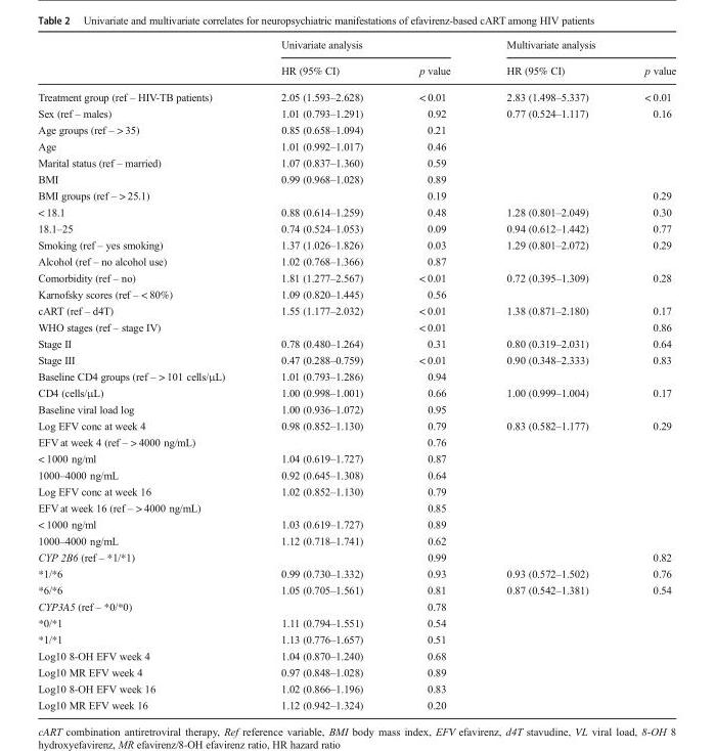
<table><thead><tr><td rowspan="2"></td><td colspan="2">Univariate analysis</td><td colspan="2">Multivariate analysis</td></tr><tr><td>HR (95% CI)</td><td>p value</td><td>HR (95% CI)</td><td>p value</td></tr></thead><tbody><tr><td>Treatment group (ref – HIV-TB patients)</td><td>2.05 (1.593–2.628)</td><td>&lt; 0.01</td><td>2.83 (1.498–5.337)</td><td>&lt; 0.01</td></tr><tr><td>Sex (ref – males)</td><td>1.01 (0.793–1.291)</td><td>0.92</td><td>0.77 (0.524–1.117)</td><td>0.16</td></tr><tr><td>Age groups (ref – &gt; 35)</td><td>0.85 (0.658–1.094)</td><td>0.21</td><td></td><td></td></tr><tr><td>Age</td><td>1.01 (0.992–1.017)</td><td>0.46</td><td></td><td></td></tr><tr><td>Marital status (ref – married)</td><td>1.07 (0.837–1.360)</td><td>0.59</td><td></td><td></td></tr><tr><td>BMI</td><td>0.99 (0.968–1.028)</td><td>0.89</td><td></td><td></td></tr><tr><td>BMI groups (ref – &gt; 25.1)</td><td></td><td>0.19</td><td></td><td>0.29</td></tr><tr><td>&lt; 18.1</td><td>0.88 (0.614–1.259)</td><td>0.48</td><td>1.28 (0.801–2.049)</td><td>0.30</td></tr><tr><td>18.1–25</td><td>0.74 (0.524–1.053)</td><td>0.09</td><td>0.94 (0.612–1.442)</td><td>0.77</td></tr><tr><td>Smoking (ref – yes smoking)</td><td>1.37 (1.026–1.826)</td><td>0.03</td><td>1.29 (0.801–2.072)</td><td>0.29</td></tr><tr><td>Alcohol (ref – no alcohol use)</td><td>1.02 (0.768–1.366)</td><td>0.87</td><td></td><td></td></tr><tr><td>Comorbidity (ref – no)</td><td>1.81 (1.277–2.567)</td><td>&lt; 0.01</td><td>0.72 (0.395–1.309)</td><td>0.28</td></tr><tr><td>Karnofsky scores (ref – &lt; 80%)</td><td>1.09 (0.820–1.445)</td><td>0.56</td><td></td><td></td></tr><tr><td>cART (ref – d4T)</td><td>1.55 (1.177–2.032)</td><td>&lt; 0.01</td><td>1.38 (0.871–2.180)</td><td>0.17</td></tr><tr><td>WHO stages (ref – stage IV)</td><td></td><td>&lt; 0.01</td><td></td><td>0.86</td></tr><tr><td>Stage II</td><td>0.78 (0.480–1.264)</td><td>0.31</td><td>0.80 (0.319–2.031)</td><td>0.64</td></tr><tr><td>Stage III</td><td>0.47 (0.288–0.759)</td><td>&lt; 0.01</td><td>0.90 (0.348–2.333)</td><td>0.83</td></tr><tr><td>Baseline CD4 groups (ref – &gt; 101 cells/μL)</td><td>1.01 (0.793–1.286)</td><td>0.94</td><td></td><td></td></tr><tr><td>CD4 (cells/μL)</td><td>1.00 (0.998–1.001)</td><td>0.66</td><td>1.00 (0.999–1.004)</td><td>0.17</td></tr><tr><td>Baseline viral load log</td><td>1.00 (0.936–1.072)</td><td>0.95</td><td></td><td></td></tr><tr><td>Log EFV conc at week 4</td><td>0.98 (0.852–1.130)</td><td>0.79</td><td>0.83 (0.582–1.177)</td><td>0.29</td></tr><tr><td>EFVat week 4 (ref – &gt; 4000 ng/mL)</td><td></td><td>0.76</td><td></td><td></td></tr><tr><td>&lt; 1000 ng/ml</td><td>1.04 (0.619–1.727)</td><td>0.87</td><td></td><td></td></tr><tr><td>1000–4000 ng/mL</td><td>0.92 (0.645–1.308)</td><td>0.64</td><td></td><td></td></tr><tr><td>Log EFV conc at week 16</td><td>1.02 (0.852–1.130)</td><td>0.79</td><td></td><td></td></tr><tr><td>EFVat week 16 (ref – &gt; 4000 ng/mL)</td><td></td><td>0.85</td><td></td><td></td></tr><tr><td>&lt; 1000 ng/ml</td><td>1.03 (0.619–1.727)</td><td>0.89</td><td></td><td></td></tr><tr><td>1000–4000 ng/mL</td><td>1.12 (0.718–1.741)</td><td>0.62</td><td></td><td></td></tr><tr><td>CYP 2B6 (ref – *1/*1)</td><td></td><td>0.99</td><td></td><td>0.82</td></tr><tr><td>*1/*6</td><td>0.99 (0.730–1.332)</td><td>0.93</td><td>0.93 (0.572–1.502)</td><td>0.76</td></tr><tr><td>*6/*6</td><td>1.05 (0.705–1.561)</td><td>0.81</td><td>0.87 (0.542–1.381)</td><td>0.54</td></tr><tr><td>CYP3A5 (ref – *0/*0)</td><td></td><td>0.78</td><td></td><td></td></tr><tr><td>*0/*1</td><td>1.11 (0.794–1.551)</td><td>0.54</td><td></td><td></td></tr><tr><td>*1/*1</td><td>1.13 (0.776–1.657)</td><td>0.51</td><td></td><td></td></tr><tr><td>Log10 8-OH EFV week 4</td><td>1.04 (0.870–1.240)</td><td>0.68</td><td></td><td></td></tr><tr><td>Log10 MR EFV week 4</td><td>0.97 (0.848–1.028)</td><td>0.89</td><td></td><td></td></tr><tr><td>Log10 8-OH EFV week 16</td><td>1.02 (0.866–1.196)</td><td>0.83</td><td></td><td></td></tr><tr><td>Log10 MR EFV week 16</td><td>1.12 (0.942–1.324)</td><td>0.20</td><td></td><td></td></tr></tbody></table>